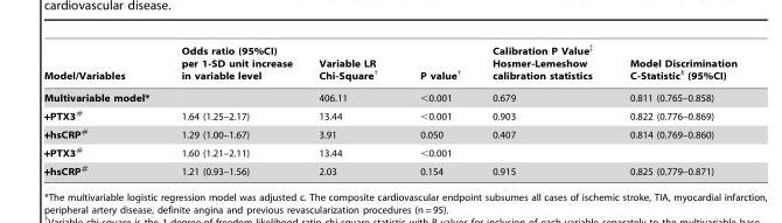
<table><thead><tr><td>Model/Variables</td><td>Odds ratio (95%CI) per 1-SD unit increase in variable level</td><td>Variable LR Chi-Square†</td><td>P value†</td><td>Calibration P Value‡ Hosmer-Lemeshow calibration statistics</td><td>Model Discrimination C-Statistic§ (95%CI)</td></tr></thead><tbody><tr><td>Multivariable model*</td><td></td><td>406.11</td><td>&lt;0.001</td><td>0.679</td><td>0.811 (0.765–0.858)</td></tr><tr><td>+PTX3#</td><td>1.64 (1.25–2.17)</td><td>13.44</td><td>&lt;0.001</td><td>0.903</td><td>0.822 (0.776–0.869)</td></tr><tr><td>+hsCRP#</td><td>1.29 (1.00–1.67)</td><td>3.91</td><td>0.050</td><td>0.407</td><td>0.814 (0.769–0.860)</td></tr><tr><td>+PTX3#</td><td>1.60 (1.21–2.11)</td><td>13.44</td><td>&lt;0.001</td><td></td><td></td></tr><tr><td>+hsCRP#</td><td>1.21 (0.93–1.56)</td><td>2.03</td><td>0.154</td><td>0.915</td><td>0.825 (0.779–0.871)</td></tr></tbody></table>